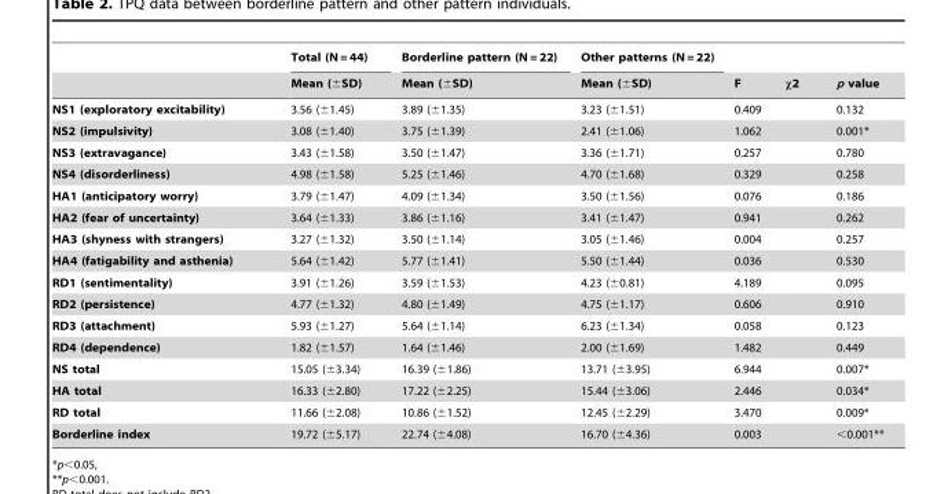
<table><thead><tr><td rowspan="2"></td><td rowspan="2">Total (N = 44) Mean (±SD)</td><td rowspan="2">Borderline pattern (N = 22) Mean (±SD)</td><td rowspan="2">Other patterns (N = 22) Mean (±SD)</td><td rowspan="2">F</td><td rowspan="2">χ2</td><td rowspan="2">p value</td></tr><tr></tr></thead><tbody><tr><td>NS1 (exploratory excitability)</td><td>3.56 (±1.45)</td><td>3.89 (±1.35)</td><td>3.23 (±1.51)</td><td>0.409</td><td></td><td>0.132</td></tr><tr><td>NS2 (impulsivity)</td><td>3.08 (±1.40)</td><td>3.75 (±1.39)</td><td>2.41 (±1.06)</td><td>1.062</td><td></td><td>0.001*</td></tr><tr><td>NS3 (extravagance)</td><td>3.43 (±1.58)</td><td>3.50 (±1.47)</td><td>3.36 (±1.71)</td><td>0.257</td><td></td><td>0.780</td></tr><tr><td>NS4 (disorderliness)</td><td>4.98 (±1.58)</td><td>5.25 (±1.46)</td><td>4.70 (±1.68)</td><td>0.329</td><td></td><td>0.258</td></tr><tr><td>HA1 (anticipatory worry)</td><td>3.79 (±1.47)</td><td>4.09 (±1.34)</td><td>3.50 (±1.56)</td><td>0.076</td><td></td><td>0.186</td></tr><tr><td>HA2 (fear of uncertainty)</td><td>3.64 (±1.33)</td><td>3.86 (±1.16)</td><td>3.41 (±1.47)</td><td>0.941</td><td></td><td>0.262</td></tr><tr><td>HA3 (shyness with strangers)</td><td>3.27 (±1.32)</td><td>3.50 (±1.14)</td><td>3.05 (±1.46)</td><td>0.004</td><td></td><td>0.257</td></tr><tr><td>HA4 (fatigability and asthenia)</td><td>5.64 (±1.42)</td><td>5.77 (±1.41)</td><td>5.50 (±1.44)</td><td>0.036</td><td></td><td>0.530</td></tr><tr><td>RD1 (sentimentality)</td><td>3.91 (±1.26)</td><td>3.59 (±1.53)</td><td>4.23 (±0.81)</td><td>4.189</td><td></td><td>0.095</td></tr><tr><td>RD2 (persistence)</td><td>4.77 (±1.32)</td><td>4.80 (±1.49)</td><td>4.75 (±1.17)</td><td>0.606</td><td></td><td>0.910</td></tr><tr><td>RD3 (attachment)</td><td>5.93 (±1.27)</td><td>5.64 (±1.14)</td><td>6.23 (±1.34)</td><td>0.058</td><td></td><td>0.123</td></tr><tr><td>RD4 (dependence)</td><td>1.82 (±1.57)</td><td>1.64 (±1.46)</td><td>2.00 (±1.69)</td><td>1.482</td><td></td><td>0.449</td></tr><tr><td>NS total</td><td>15.05 (±3.34)</td><td>16.39 (±1.86)</td><td>13.71 (±3.95)</td><td>6.944</td><td></td><td>0.007*</td></tr><tr><td>HA total</td><td>16.33 (±2.80)</td><td>17.22 (±2.25)</td><td>15.44 (±3.06)</td><td>2.446</td><td></td><td>0.034*</td></tr><tr><td>RD total</td><td>11.66 (±2.08)</td><td>10.86 (±1.52)</td><td>12.45 (±2.29)</td><td>3.470</td><td></td><td>0.009*</td></tr><tr><td>Borderline index</td><td>19.72 (±5.17)</td><td>22.74 (±4.08)</td><td>16.70 (±4.36)</td><td>0.003</td><td></td><td>&lt;0.001**</td></tr></tbody></table>